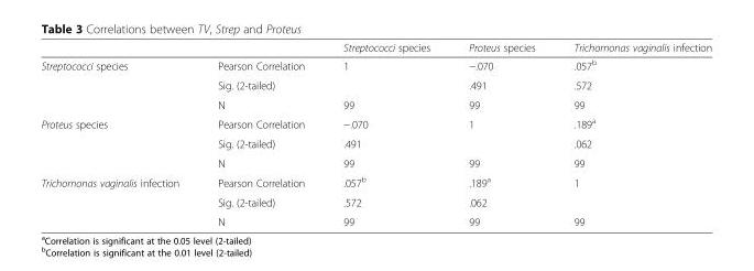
<table><thead><tr><td></td><td></td><td>Streptococci species</td><td>Proteus species</td><td>Trichomonas vaginalis infection</td></tr></thead><tbody><tr><td rowspan="3">Streptococci species</td><td>Pearson Correlation</td><td>1</td><td>−.070</td><td>.057<sup>b</sup></td></tr><tr><td>Sig. (2-tailed)</td><td></td><td>.491</td><td>.572</td></tr><tr><td>N</td><td>99</td><td>99</td><td>99</td></tr><tr><td rowspan="3">Proteus species</td><td>Pearson Correlation</td><td>−.070</td><td>1</td><td>.189<sup>a</sup></td></tr><tr><td>Sig. (2-tailed)</td><td>.491</td><td></td><td>.062</td></tr><tr><td>N</td><td>99</td><td>99</td><td>99</td></tr><tr><td rowspan="3">Trichomonas vaginalis infection</td><td>Pearson Correlation</td><td>.057<sup>b</sup></td><td>.189<sup>a</sup></td><td>1</td></tr><tr><td>Sig. (2-tailed)</td><td>.572</td><td>.062</td><td></td></tr><tr><td>N</td><td>99</td><td>99</td><td>99</td></tr></tbody></table>